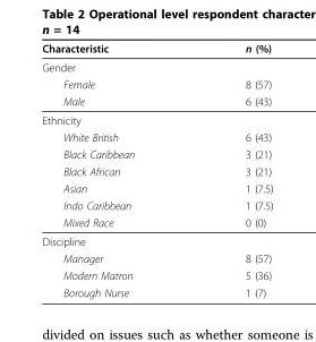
<table><thead><tr><td>Characteristic</td><td>n (%)</td></tr></thead><tbody><tr><td colspan="2">Gender</td></tr><tr><td>Female</td><td>8 (57)</td></tr><tr><td>Male</td><td>6 (43)</td></tr><tr><td colspan="2">Ethnicity</td></tr><tr><td>White British</td><td>6 (43)</td></tr><tr><td>Black Caribbean</td><td>3 (21)</td></tr><tr><td>Black African</td><td>3 (21)</td></tr><tr><td>Asian</td><td>1 (7.5)</td></tr><tr><td>Indo Caribbean</td><td>1 (7.5)</td></tr><tr><td>Mixed Race</td><td>0 (0)</td></tr><tr><td colspan="2">Discipline</td></tr><tr><td>Manager</td><td>8 (57)</td></tr><tr><td>Modern Matron</td><td>5 (36)</td></tr><tr><td>Borough Nurse</td><td>1 (7)</td></tr></tbody></table>